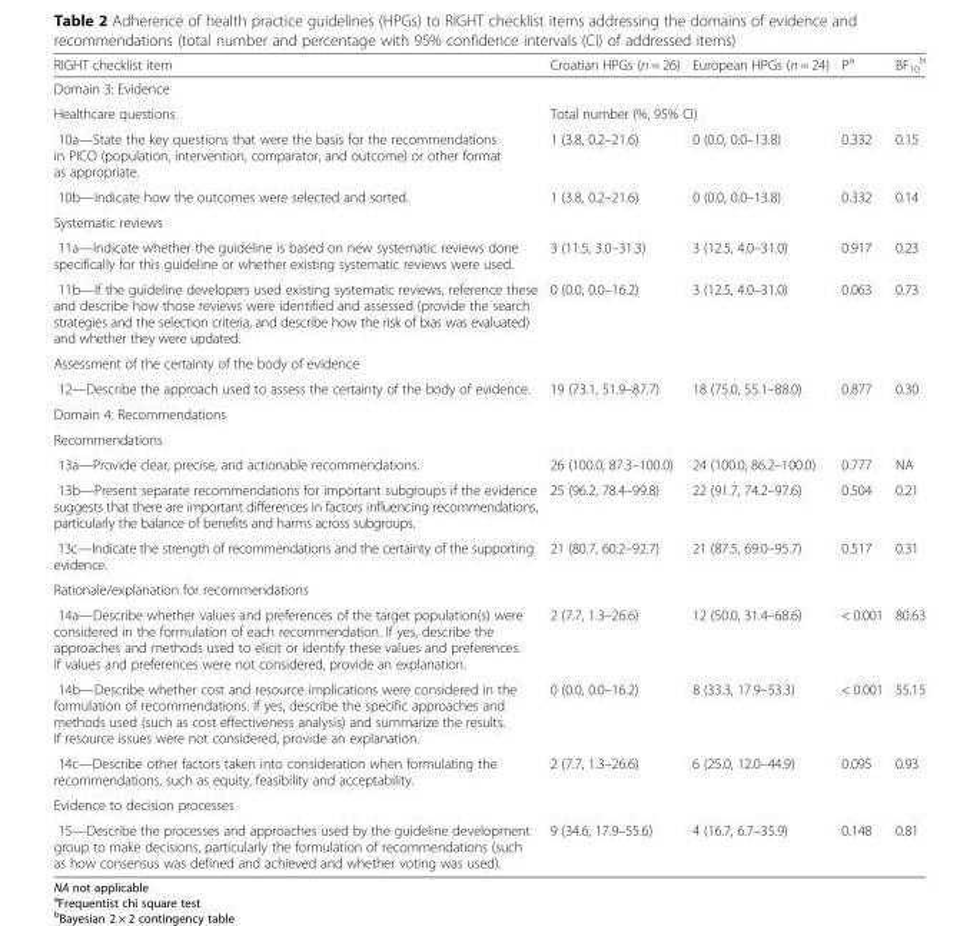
<table><thead><tr><td>RIGHT checklist item</td><td>Croatian HPGs (n = 26)</td><td>European HPGs (n = 24)</td><td>P<sup>a</sup></td><td>BF<sub>10</sub> <sup>b</sup></td></tr></thead><tbody><tr><td colspan="5">Domain 3: Evidence</td></tr><tr><td>Healthcare questions</td><td colspan="2">Total number (%, 95% CI)</td><td colspan="2"></td></tr><tr><td>10a—State the key questions that were the basis for the recommendations in PICO (population, intervention, comparator, and outcome) or other format as appropriate.</td><td>1 (3.8, 0.2–21.6)</td><td>0 (0.0, 0.0–13.8)</td><td>0.332</td><td>0.15</td></tr><tr><td>10b—Indicate how the outcomes were selected and sorted.</td><td>1 (3.8, 0.2–21.6)</td><td>0 (0.0, 0.0–13.8)</td><td>0.332</td><td>0.14</td></tr><tr><td colspan="5">Systematic reviews</td></tr><tr><td>11a—Indicate whether the guideline is based on new systematic reviews done specifically for this guideline or whether existing systematic reviews were used.</td><td>3 (11.5, 3.0–31.3)</td><td>3 (12.5, 4.0–31.0)</td><td>0.917</td><td>0.23</td></tr><tr><td>11b—If the guideline developers used existing systematic reviews, reference these and describe how those reviews were identified and assessed (provide the search strategies and the selection criteria, and describe how the risk of bias was evaluated) and whether they were updated.</td><td>0 (0.0, 0.0–16.2)</td><td>3 (12.5, 4.0–31.0)</td><td>0.063</td><td>0.73</td></tr><tr><td colspan="5">Assessment of the certainty of the body of evidence</td></tr><tr><td>12—Describe the approach used to assess the certainty of the body of evidence.</td><td>19 (73.1, 51.9–87.7)</td><td>18 (75.0, 55.1–88.0)</td><td>0.877</td><td>0.30</td></tr><tr><td colspan="5">Domain 4: Recommendations</td></tr><tr><td colspan="5">Recommendations</td></tr><tr><td>13a—Provide clear, precise, and actionable recommendations.</td><td>26 (100.0, 87.3–100.0)</td><td>24 (100.0, 86.2–100.0)</td><td>0.777</td><td>NA</td></tr><tr><td>13b—Present separate recommendations for important subgroups if the evidence suggests that there are important differences in factors influencing recommendations, particularly the balance of benefits and harms across subgroups.</td><td>25 (96.2, 78.4–99.8)</td><td>22 (91.7, 74.2–97.6)</td><td>0.504</td><td>0.21</td></tr><tr><td>13c—Indicate the strength of recommendations and the certainty of the supporting evidence.</td><td>21 (80.7, 60.2–92.7)</td><td>21 (87.5, 69.0–95.7)</td><td>0.517</td><td>0.31</td></tr><tr><td colspan="5">Rationale/explanation for recommendations</td></tr><tr><td>14a—Describe whether values and preferences of the target population(s) were considered in the formulation of each recommendation. If yes, describe the approaches and methods used to elicit or identify these values and preferences. If values and preferences were not considered, provide an explanation.</td><td>2 (7.7, 1.3–26.6)</td><td>12 (50.0, 31.4–68.6)</td><td>&lt; 0.001</td><td>80.63</td></tr><tr><td>14b—Describe whether cost and resource implications were considered in the formulation of recommendations. If yes, describe the specific approaches and methods used (such as cost effectiveness analysis) and summarize the results. If resource issues were not considered, provide an explanation.</td><td>0 (0.0, 0.0–16.2)</td><td>8 (33.3, 17.9–53.3)</td><td>&lt; 0.001</td><td>55.15</td></tr><tr><td>14c—Describe other factors taken into consideration when formulating the recommendations, such as equity, feasibility and acceptability.</td><td>2 (7.7, 1.3–26.6)</td><td>6 (25.0, 12.0–44.9)</td><td>0.095</td><td>0.93</td></tr><tr><td colspan="5">Evidence to decision processes</td></tr><tr><td>15—Describe the processes and approaches used by the guideline development group to make decisions, particularly the formulation of recommendations (such as how consensus was defined and achieved and whether voting was used).</td><td>9 (34.6, 17.9–55.6)</td><td>4 (16.7, 6.7–35.9)</td><td>0.148</td><td>0.81</td></tr></tbody></table>